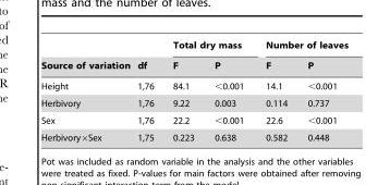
<table><thead><tr><td rowspan="2">Source of variation</td><td rowspan="2">df</td><td colspan="2">Total dry mass</td><td colspan="2">Number of leaves</td></tr><tr><td>F</td><td>P</td><td>F</td><td>P</td></tr></thead><tbody><tr><td>Height</td><td>1,76</td><td>84.1</td><td>&lt;0.001</td><td>14.1</td><td>&lt;0.001</td></tr><tr><td>Herbivory</td><td>1,76</td><td>9.22</td><td>0.003</td><td>0.114</td><td>0.737</td></tr><tr><td>Sex</td><td>1,76</td><td>22.2</td><td>&lt;0.001</td><td>22.6</td><td>&lt;0.001</td></tr><tr><td>Herbivory×Sex</td><td>1,75</td><td>0.223</td><td>0.638</td><td>0.582</td><td>0.448</td></tr></tbody></table>